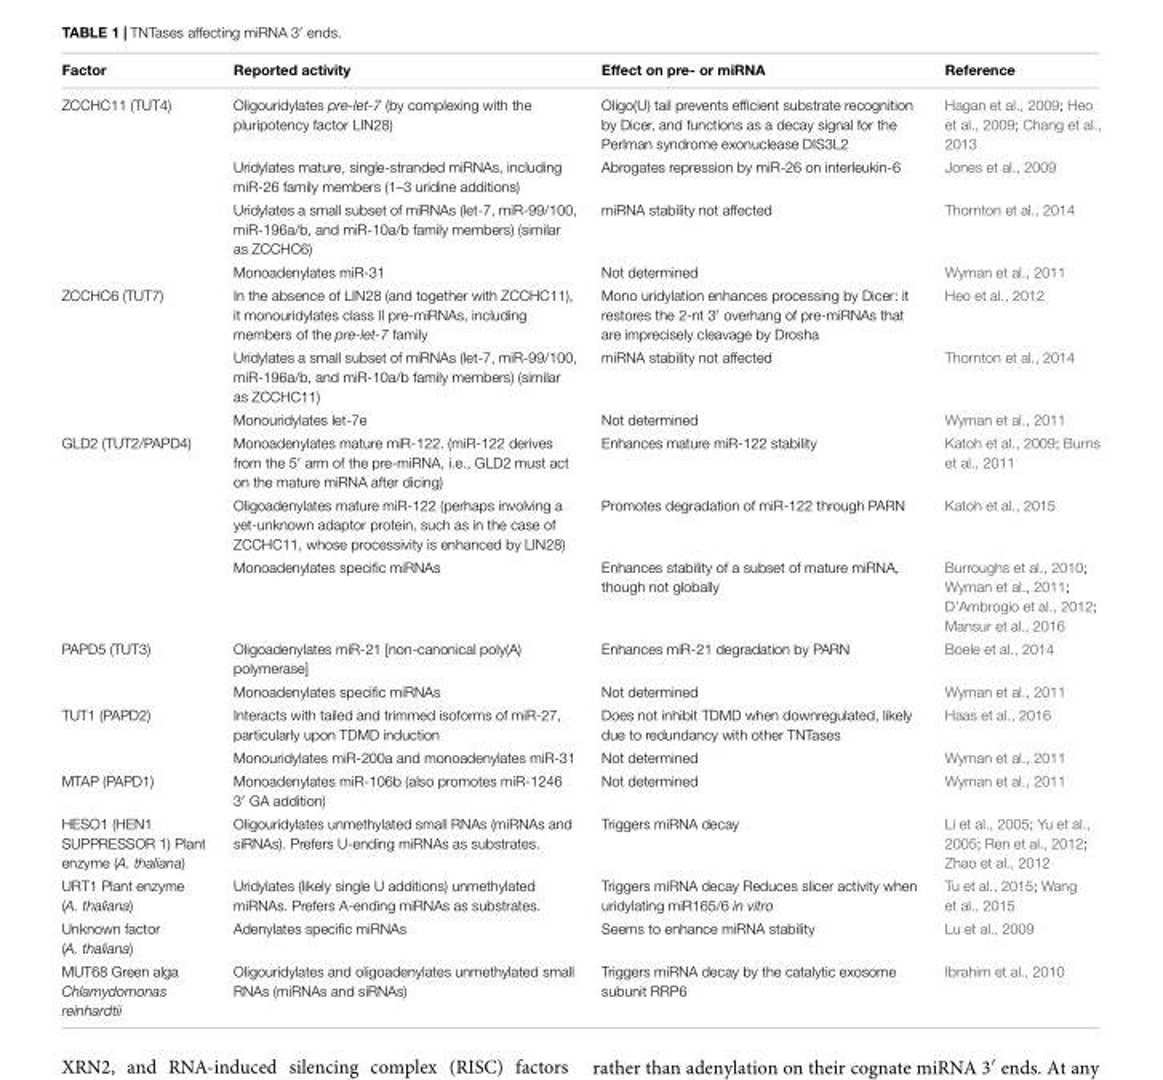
<table><thead><tr><td>Factor</td><td>Reported activity</td><td>Effect on pre- or miRNA</td><td>Reference</td></tr></thead><tbody><tr><td rowspan="4">ZCCHC11 (TUT4)</td><td>Oligouridylates pre-let-7 (by complexing with the pluripotency factor LIN28)</td><td>Oligo(U) tail prevents efficient substrate recognition by Dicer, and functions as a decay signal for the Perlman syndrome exonuclease DIS3L2</td><td>Hagan et al., 2009; Heo et al., 2009; Chang et al., 2013</td></tr><tr><td>Uridylates mature, single-stranded miRNAs, including miR-26 family members (1–3 uridine additions)</td><td>Abrogates repression by miR-26 on interleukin-6</td><td>Jones et al., 2009</td></tr><tr><td>Uridylates a small subset of miRNAs (let-7, miR-99/100, miR-196a/b, and miR-10a/b family members) (similar as ZCCHC6)</td><td>miRNA stability not affected</td><td>Thornton et al., 2014</td></tr><tr><td>Monoadenylates miR-31</td><td>Not determined</td><td>Wyman et al., 2011</td></tr><tr><td rowspan="3">ZCCHC6 (TUT7)</td><td>In the absence of LIN28 (and together with ZCCHC11), it monouridylates class II pre-miRNAs, including members of the pre-let-7 family</td><td>Mono uridylation enhances processing by Dicer: it restores the 2-nt 3′ overhang of pre-miRNAs that are imprecisely cleavage by Drosha</td><td>Heo et al., 2012</td></tr><tr><td>Uridylates a small subset of miRNAs (let-7, miR-99/100, miR-196a/b, and miR-10a/b family members) (similar as ZCCHC11)</td><td>miRNA stability not affected</td><td>Thornton et al., 2014</td></tr><tr><td>Monouridylates let-7e</td><td>Not determined</td><td>Wyman et al., 2011</td></tr><tr><td rowspan="3">GLD2 (TUT2/PAPD4)</td><td>Monoadenylates mature miR-122. (miR-122 derives from the 5′ arm of the pre-miRNA, i.e., GLD2 must act on the mature miRNA after dicing)</td><td>Enhances mature miR-122 stability</td><td>Katoh et al., 2009; Burns et al., 2011</td></tr><tr><td>Oligoadenylates mature miR-122 (perhaps involving a yet-unknown adaptor protein, such as in the case of ZCCHC11, whose processivity is enhanced by LIN28)</td><td>Promotes degradation of miR-122 through PARN</td><td>Katoh et al., 2015</td></tr><tr><td>Monoadenylates specific miRNAs</td><td>Enhances stability of a subset of mature miRNA, though not globally</td><td>Burroughs et al., 2010; Wyman et al., 2011; D’Ambrogio et al., 2012; Mansur et al., 2016</td></tr><tr><td rowspan="2">PAPD5 (TUT3)</td><td>Oligoadenylates miR-21 [non-canonical poly(A) polymerase]</td><td>Enhances miR-21 degradation by PARN</td><td>Boele et al., 2014</td></tr><tr><td>Monoadenylates specific miRNAs</td><td>Not determined</td><td>Wyman et al., 2011</td></tr><tr><td rowspan="2">TUT1 (PAPD2)</td><td>Interacts with tailed and trimmed isoforms of miR-27, particularly upon TDMD induction</td><td>Does not inhibit TDMD when downregulated, likely due to redundancy with other TNTases</td><td>Haas et al., 2016</td></tr><tr><td>Monouridylates miR-200a and monoadenylates miR-31</td><td>Not determined</td><td>Wyman et al., 2011</td></tr><tr><td>MTAP (PAPD1)</td><td>Monoadenylates miR-106b (also promotes miR-1246 3′ GA addition)</td><td>Not determined</td><td>Wyman et al., 2011</td></tr><tr><td>HESO1 (HEN1 SUPPRESSOR 1) Plant enzyme (A. thaliana)</td><td>Oligouridylates unmethylated small RNAs (miRNAs and siRNAs). Prefers U-ending miRNAs as substrates.</td><td>Triggers miRNA decay</td><td>Li et al., 2005; Yu et al., 2005; Ren et al., 2012; Zhao et al., 2012</td></tr><tr><td>URT1 Plant enzyme (A. thaliana)</td><td>Uridylates (likely single U additions) unmethylated miRNAs. Prefers A-ending miRNAs as substrates.</td><td>Triggers miRNA decay Reduces slicer activity when uridylating miR165/6 in vitro</td><td>Tu et al., 2015; Wang et al., 2015</td></tr><tr><td>Unknown factor (A. thaliana)</td><td>Adenylates specific miRNAs</td><td>Seems to enhance miRNA stability</td><td>Lu et al., 2009</td></tr><tr><td>MUT68 Green alga Chlamydomonas reinhardtii</td><td>Oligouridylates and oligoadenylates unmethylated small RNAs (miRNAs and siRNAs)</td><td>Triggers miRNA decay by the catalytic exosome subunit RRP6</td><td>Ibrahim et al., 2010</td></tr></tbody></table>